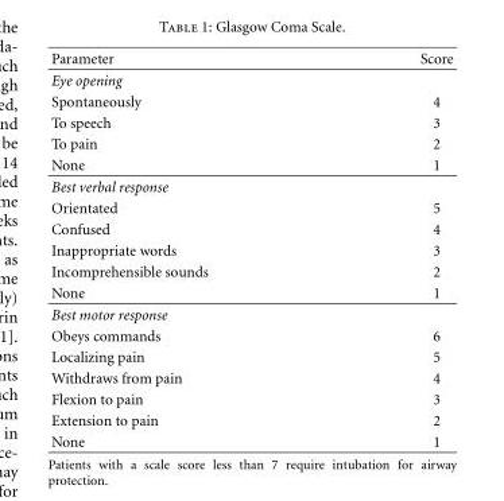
<table><thead><tr><td>Parameter</td><td>Score</td></tr></thead><tbody><tr><td colspan="2">Eye opening</td></tr><tr><td>Spontaneously</td><td>4</td></tr><tr><td>To speech</td><td>3</td></tr><tr><td>To pain</td><td>2</td></tr><tr><td>None</td><td>1</td></tr><tr><td colspan="2">Best verbal response</td></tr><tr><td>Orientated</td><td>5</td></tr><tr><td>Confused</td><td>4</td></tr><tr><td>Inappropriate words</td><td>3</td></tr><tr><td>Incomprehensible sounds</td><td>2</td></tr><tr><td>None</td><td>1</td></tr><tr><td colspan="2">Best motor response</td></tr><tr><td>Obeys commands</td><td>6</td></tr><tr><td>Localizing pain</td><td>5</td></tr><tr><td>Withdraws from pain</td><td>4</td></tr><tr><td>Flexion to pain</td><td>3</td></tr><tr><td>Extension to pain</td><td>2</td></tr><tr><td>None</td><td>1</td></tr></tbody></table>